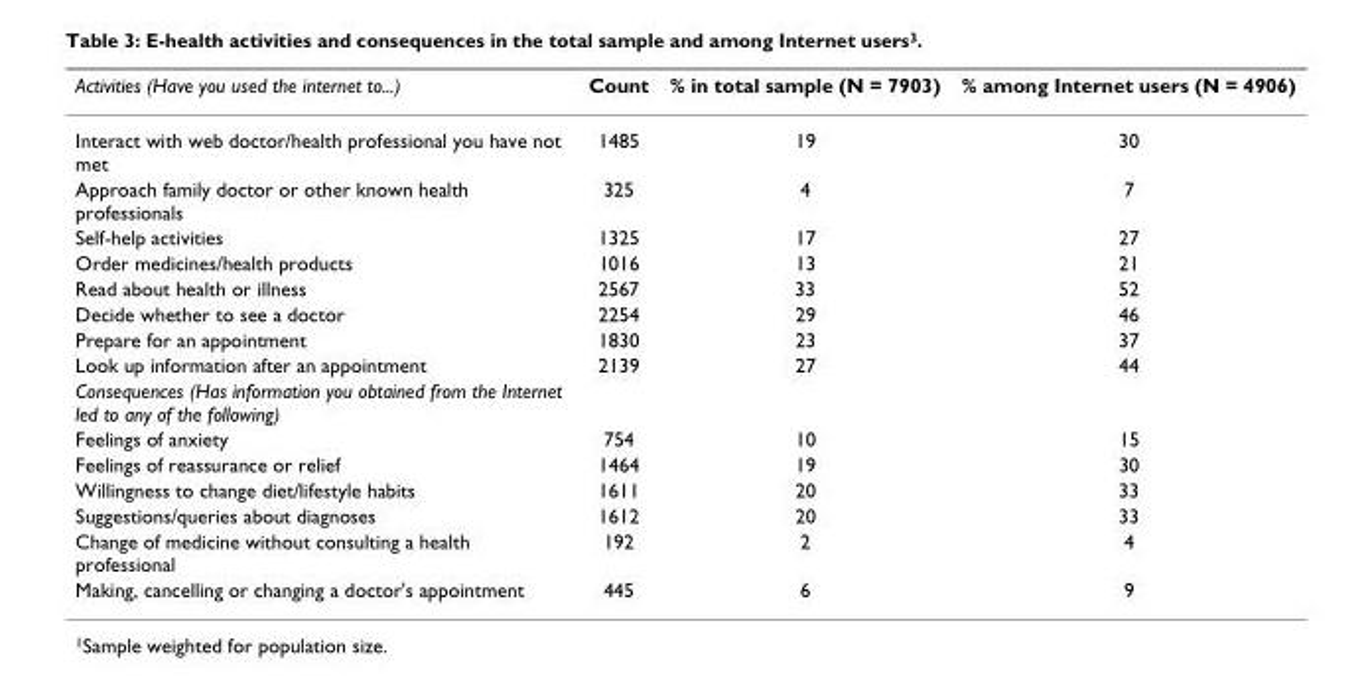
<table><thead><tr><td>Activities (Have you used the internet to...)</td><td>Count</td><td>% in total sample (N = 7903)</td><td>% among Internet users (N = 4906)</td></tr></thead><tbody><tr><td>Interact with web doctor/health professional you have not met</td><td>1485</td><td>19</td><td>30</td></tr><tr><td>Approach family doctor or other known health professionals</td><td>325</td><td>4</td><td>7</td></tr><tr><td>Self-help activities</td><td>1325</td><td>17</td><td>27</td></tr><tr><td>Order medicines/health products</td><td>1016</td><td>13</td><td>21</td></tr><tr><td>Read about health or illness</td><td>2567</td><td>33</td><td>52</td></tr><tr><td>Decide whether to see a doctor</td><td>2254</td><td>29</td><td>46</td></tr><tr><td>Prepare for an appointment</td><td>1830</td><td>23</td><td>37</td></tr><tr><td>Look up information after an appointment</td><td>2139</td><td>27</td><td>44</td></tr><tr><td colspan="4">Consequences (Has information you obtained from the Internet led to any of the following)</td></tr><tr><td>Feelings of anxiety</td><td>754</td><td>10</td><td>15</td></tr><tr><td>Feelings of reassurance or relief</td><td>1464</td><td>19</td><td>30</td></tr><tr><td>Willingness to change diet/lifestyle habits</td><td>1611</td><td>20</td><td>33</td></tr><tr><td>Suggestions/queries about diagnoses</td><td>1612</td><td>20</td><td>33</td></tr><tr><td>Change of medicine without consulting a health professional</td><td>192</td><td>2</td><td>4</td></tr><tr><td>Making, cancelling or changing a doctor&#x27;s appointment</td><td>445</td><td>6</td><td>9</td></tr></tbody></table>